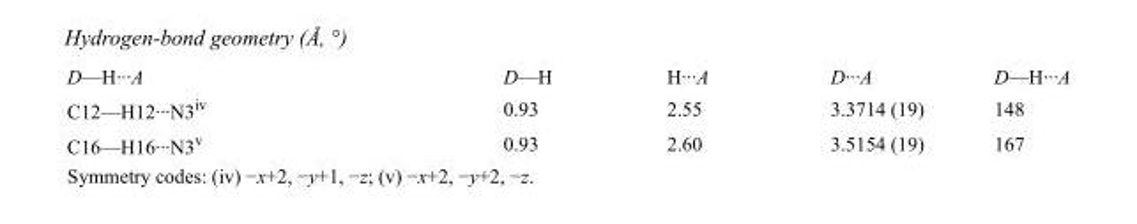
<table><tbody><tr><td>D—H···A</td><td>D—H</td><td>H···A</td><td>D···A</td><td>D—H···A</td></tr><tr><td>C12—H12···N3<sup>iv</sup></td><td>0.93</td><td>2.55</td><td>3.3714 (19)</td><td>148</td></tr><tr><td>C16—H16···N3<sup>v</sup></td><td>0.93</td><td>2.60</td><td>3.5154 (19)</td><td>167</td></tr></tbody></table>